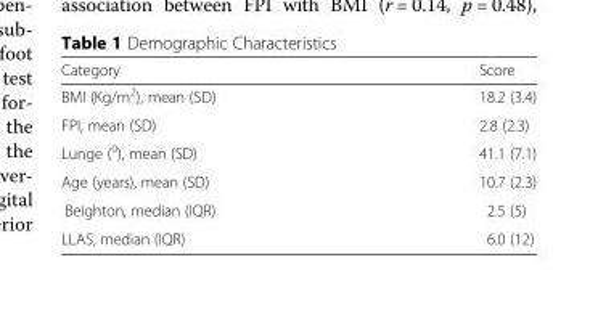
<table><thead><tr><td>Category</td><td>Score</td></tr></thead><tbody><tr><td>BMI (Kg/m<sup>2</sup>), mean (SD)</td><td>18.2 (3.4)</td></tr><tr><td>FPI, mean (SD)</td><td>2.8 (2.3)</td></tr><tr><td>Lunge (<sup>0</sup>), mean (SD)</td><td>41.1 (7.1)</td></tr><tr><td>Age (years), mean (SD)</td><td>10.7 (2.3)</td></tr><tr><td>Beighton, median (IQR)</td><td>2.5 (5)</td></tr><tr><td>LLAS, median (IQR)</td><td>6.0 (12)</td></tr></tbody></table>